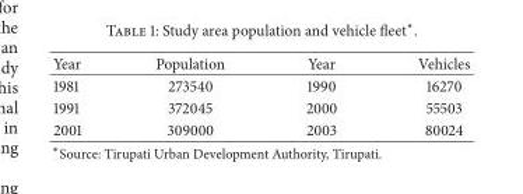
<table><thead><tr><td>Year</td><td>Population</td><td>Year</td><td>Vehicles</td></tr></thead><tbody><tr><td>1981</td><td>273540</td><td>1990</td><td>16270</td></tr><tr><td>1991</td><td>372045</td><td>2000</td><td>55503</td></tr><tr><td>2001</td><td>309000</td><td>2003</td><td>80024</td></tr></tbody></table>